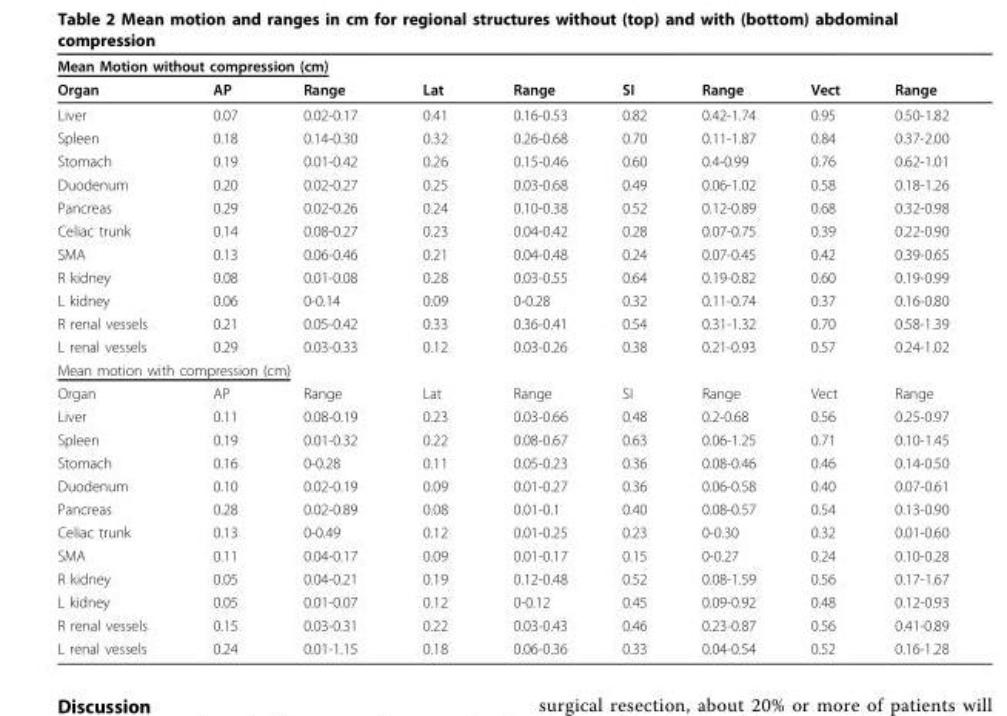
<table><thead><tr><td colspan="4">Mean Motion without compression (cm)</td><td rowspan="2">Range</td><td rowspan="2">SI</td><td rowspan="2">Range</td><td rowspan="2">Vect</td><td rowspan="2">Range</td></tr><tr><td>Organ</td><td>AP</td><td>Range</td><td>Lat</td></tr></thead><tbody><tr><td>Liver</td><td>0.07</td><td>0.02-0.17</td><td>0.41</td><td>0.16-0.53</td><td>0.82</td><td>0.42-1.74</td><td>0.95</td><td>0.50-1.82</td></tr><tr><td>Spleen</td><td>0.18</td><td>0.14-0.30</td><td>0.32</td><td>0.26-0.68</td><td>0.70</td><td>0.11-1.87</td><td>0.84</td><td>0.37-2.00</td></tr><tr><td>Stomach</td><td>0.19</td><td>0.01-0.42</td><td>0.26</td><td>0.15-0.46</td><td>0.60</td><td>0.4-0.99</td><td>0.76</td><td>0.62-1.01</td></tr><tr><td>Duodenum</td><td>0.20</td><td>0.02-0.27</td><td>0.25</td><td>0.03-0.68</td><td>0.49</td><td>0.06-1.02</td><td>0.58</td><td>0.18-1.26</td></tr><tr><td>Pancreas</td><td>0.29</td><td>0.02-0.26</td><td>0.24</td><td>0.10-0.38</td><td>0.52</td><td>0.12-0.89</td><td>0.68</td><td>0.32-0.98</td></tr><tr><td>Celiac trunk</td><td>0.14</td><td>0.08-0.27</td><td>0.23</td><td>0.04-0.42</td><td>0.28</td><td>0.07-0.75</td><td>0.39</td><td>0.22-0.90</td></tr><tr><td>SMA</td><td>0.13</td><td>0.06-0.46</td><td>0.21</td><td>0.04-0.48</td><td>0.24</td><td>0.07-0.45</td><td>0.42</td><td>0.39-0.65</td></tr><tr><td>R kidney</td><td>0.08</td><td>0.01-0.08</td><td>0.28</td><td>0.03-0.55</td><td>0.64</td><td>0.19-0.82</td><td>0.60</td><td>0.19-0.99</td></tr><tr><td>L kidney</td><td>0.06</td><td>0-0.14</td><td>0.09</td><td>0-0.28</td><td>0.32</td><td>0.11-0.74</td><td>0.37</td><td>0.16-0.80</td></tr><tr><td>R renal vessels</td><td>0.21</td><td>0.05-0.42</td><td>0.33</td><td>0.36-0.41</td><td>0.54</td><td>0.31-1.32</td><td>0.70</td><td>0.58-1.39</td></tr><tr><td>L renal vessels</td><td>0.29</td><td>0.03-0.33</td><td>0.12</td><td>0.03-0.26</td><td>0.38</td><td>0.21-0.93</td><td>0.57</td><td>0.24-1.02</td></tr><tr><td colspan="9">Mean motion with compression (cm)</td></tr><tr><td>Organ</td><td>AP</td><td>Range</td><td>Lat</td><td>Range</td><td>SI</td><td>Range</td><td>Vect</td><td>Range</td></tr><tr><td>Liver</td><td>0.11</td><td>0.08-0.19</td><td>0.23</td><td>0.03-0.66</td><td>0.48</td><td>0.2-0.68</td><td>0.56</td><td>0.25-0.97</td></tr><tr><td>Spleen</td><td>0.19</td><td>0.01-0.32</td><td>0.22</td><td>0.08-0.67</td><td>0.63</td><td>0.06-1.25</td><td>0.71</td><td>0.10-1.45</td></tr><tr><td>Stomach</td><td>0.16</td><td>0-0.28</td><td>0.11</td><td>0.05-0.23</td><td>0.36</td><td>0.08-0.46</td><td>0.46</td><td>0.14-0.50</td></tr><tr><td>Duodenum</td><td>0.10</td><td>0.02-0.19</td><td>0.09</td><td>0.01-0.27</td><td>0.36</td><td>0.06-0.58</td><td>0.40</td><td>0.07-0.61</td></tr><tr><td>Pancreas</td><td>0.28</td><td>0.02-0.89</td><td>0.08</td><td>0.01-0.1</td><td>0.40</td><td>0.08-0.57</td><td>0.54</td><td>0.13-0.90</td></tr><tr><td>Celiac trunk</td><td>0.13</td><td>0-0.49</td><td>0.12</td><td>0.01-0.25</td><td>0.23</td><td>0-0.30</td><td>0.32</td><td>0.01-0.60</td></tr><tr><td>SMA</td><td>0.11</td><td>0.04-0.17</td><td>0.09</td><td>0.01-0.17</td><td>0.15</td><td>0-0.27</td><td>0.24</td><td>0.10-0.28</td></tr><tr><td>R kidney</td><td>0.05</td><td>0.04-0.21</td><td>0.19</td><td>0.12-0.48</td><td>0.52</td><td>0.08-1.59</td><td>0.56</td><td>0.17-1.67</td></tr><tr><td>L kidney</td><td>0.05</td><td>0.01-0.07</td><td>0.12</td><td>0-0.12</td><td>0.45</td><td>0.09-0.92</td><td>0.48</td><td>0.12-0.93</td></tr><tr><td>R renal vessels</td><td>0.15</td><td>0.03-0.31</td><td>0.22</td><td>0.03-0.43</td><td>0.46</td><td>0.23-0.87</td><td>0.56</td><td>0.41-0.89</td></tr><tr><td>L renal vessels</td><td>0.24</td><td>0.01-1.15</td><td>0.18</td><td>0.06-0.36</td><td>0.33</td><td>0.04-0.54</td><td>0.52</td><td>0.16-1.28</td></tr></tbody></table>